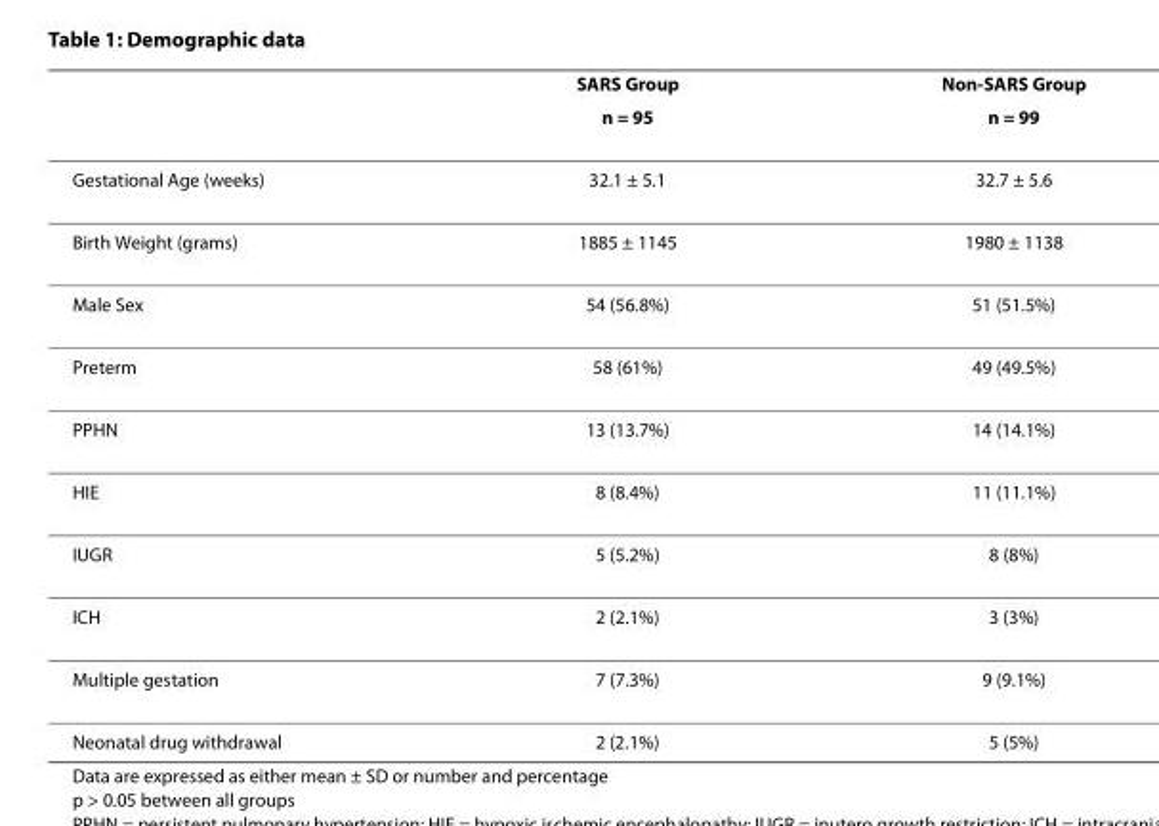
<table><thead><tr><td rowspan="2"></td><td rowspan="2">SARS Group n = 95</td><td rowspan="2">Non-SARS Group n = 99</td></tr><tr></tr></thead><tbody><tr><td>Gestational Age (weeks)</td><td>32.1 ± 5.1</td><td>32.7 ± 5.6</td></tr><tr><td>Birth Weight (grams)</td><td>1885 ± 1145</td><td>1980 ± 1138</td></tr><tr><td>Male Sex</td><td>54 (56.8%)</td><td>51 (51.5%)</td></tr><tr><td>Preterm</td><td>58 (61%)</td><td>49 (49.5%)</td></tr><tr><td>PPHN</td><td>13 (13.7%)</td><td>14 (14.1%)</td></tr><tr><td>HIE</td><td>8 (8.4%)</td><td>11 (11.1%)</td></tr><tr><td>IUGR</td><td>5 (5.2%)</td><td>8 (8%)</td></tr><tr><td>ICH</td><td>2 (2.1%)</td><td>3 (3%)</td></tr><tr><td>Multiple gestation</td><td>7 (7.3%)</td><td>9 (9.1%)</td></tr><tr><td>Neonatal drug withdrawal</td><td>2 (2.1%)</td><td>5 (5%)</td></tr></tbody></table>